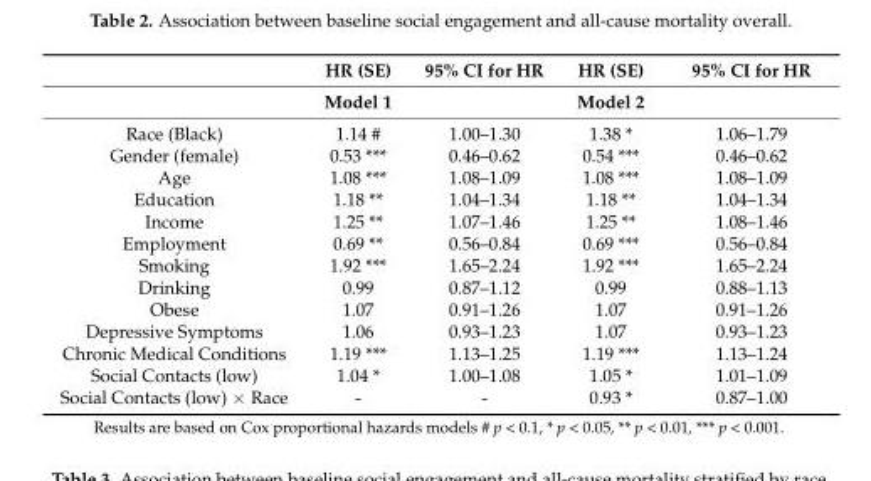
<table><thead><tr><td rowspan="2"></td><td rowspan="2">HR (SE) Model 1</td><td rowspan="2">95% CI for HR</td><td rowspan="2">HR (SE) Model 2</td><td rowspan="2">95% CI for HR</td></tr><tr></tr></thead><tbody><tr><td>Race (Black)</td><td>1.14 #</td><td>1.00–1.30</td><td>1.38 *</td><td>1.06–1.79</td></tr><tr><td>Gender (female)</td><td>0.53 ***</td><td>0.46–0.62</td><td>0.54 ***</td><td>0.46–0.62</td></tr><tr><td>Age</td><td>1.08 ***</td><td>1.08–1.09</td><td>1.08 ***</td><td>1.08–1.09</td></tr><tr><td>Education</td><td>1.18 **</td><td>1.04–1.34</td><td>1.18 **</td><td>1.04–1.34</td></tr><tr><td>Income</td><td>1.25 **</td><td>1.07–1.46</td><td>1.25 **</td><td>1.08–1.46</td></tr><tr><td>Employment</td><td>0.69 **</td><td>0.56–0.84</td><td>0.69 ***</td><td>0.56–0.84</td></tr><tr><td>Smoking</td><td>1.92 ***</td><td>1.65–2.24</td><td>1.92 ***</td><td>1.65–2.24</td></tr><tr><td>Drinking</td><td>0.99</td><td>0.87–1.12</td><td>0.99</td><td>0.88–1.13</td></tr><tr><td>Obese</td><td>1.07</td><td>0.91–1.26</td><td>1.07</td><td>0.91–1.26</td></tr><tr><td>Depressive Symptoms</td><td>1.06</td><td>0.93–1.23</td><td>1.07</td><td>0.93–1.23</td></tr><tr><td>Chronic Medical Conditions</td><td>1.19 ***</td><td>1.13–1.25</td><td>1.19 ***</td><td>1.13–1.24</td></tr><tr><td>Social Contacts (low)</td><td>1.04 *</td><td>1.00–1.08</td><td>1.05 *</td><td>1.01–1.09</td></tr><tr><td>Social Contacts (low) × Race</td><td>-</td><td>-</td><td>0.93 *</td><td>0.87–1.00</td></tr></tbody></table>